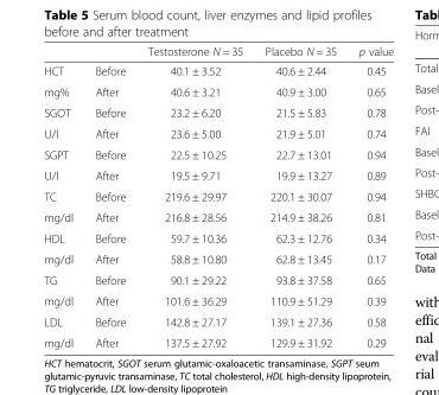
<table><thead><tr><td></td><td></td><td>Testosterone N = 35</td><td>Placebo N = 35</td><td>p value</td></tr></thead><tbody><tr><td>HCT</td><td>Before</td><td>40.1 ± 3.52</td><td>40.6 ± 2.44</td><td>0.45</td></tr><tr><td>mg%</td><td>After</td><td>40.6 ± 3.21</td><td>40.9 ± 3.00</td><td>0.65</td></tr><tr><td>SGOT</td><td>Before</td><td>23.2 ± 6.20</td><td>21.5 ± 5.83</td><td>0.78</td></tr><tr><td>U/l</td><td>After</td><td>23.6 ± 5.00</td><td>21.9 ± 5.01</td><td>0.74</td></tr><tr><td>SGPT</td><td>Before</td><td>22.5 ± 10.25</td><td>22.7 ± 13.01</td><td>0.94</td></tr><tr><td>U/l</td><td>After</td><td>19.5 ± 9.71</td><td>19.9 ± 13.27</td><td>0.89</td></tr><tr><td>TC</td><td>Before</td><td>219.6 ± 29.97</td><td>220.1 ± 30.07</td><td>0.94</td></tr><tr><td>mg/dl</td><td>After</td><td>216.8 ± 28.56</td><td>214.9 ± 38.26</td><td>0.81</td></tr><tr><td>HDL</td><td>Before</td><td>59.7 ± 10.36</td><td>62.3 ± 12.76</td><td>0.34</td></tr><tr><td>mg/dl</td><td>After</td><td>58.8 ± 10.80</td><td>62.8 ± 13.45</td><td>0.17</td></tr><tr><td>TG</td><td>Before</td><td>90.1 ± 29.22</td><td>93.8 ± 37.58</td><td>0.65</td></tr><tr><td>mg/dl</td><td>After</td><td>101.6 ± 36.29</td><td>110.9 ± 51.29</td><td>0.39</td></tr><tr><td>LDL</td><td>Before</td><td>142.8 ± 27.17</td><td>139.1 ± 27.36</td><td>0.58</td></tr><tr><td>mg/dl</td><td>After</td><td>137.5 ± 27.92</td><td>129.9 ± 31.92</td><td>0.29</td></tr></tbody></table>